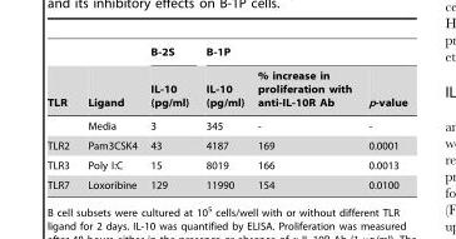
<table><thead><tr><td rowspan="2">TLR</td><td rowspan="2">Ligand</td><td rowspan="2">B-2S IL-10 (pg/ml)</td><td colspan="3">B-1P</td></tr><tr><td>IL-10 (pg/ml)</td><td>% increase in proliferation with anti-IL-10R Ab</td><td>p-value</td></tr></thead><tbody><tr><td></td><td>Media</td><td>3</td><td>345</td><td>-</td><td>-</td></tr><tr><td>TLR2</td><td>Pam3CSK4</td><td>43</td><td>4187</td><td>169</td><td>0.0001</td></tr><tr><td>TLR3</td><td>Poly I:C</td><td>15</td><td>8019</td><td>166</td><td>0.0013</td></tr><tr><td>TLR7</td><td>Loxoribine</td><td>129</td><td>11990</td><td>154</td><td>0.0100</td></tr></tbody></table>